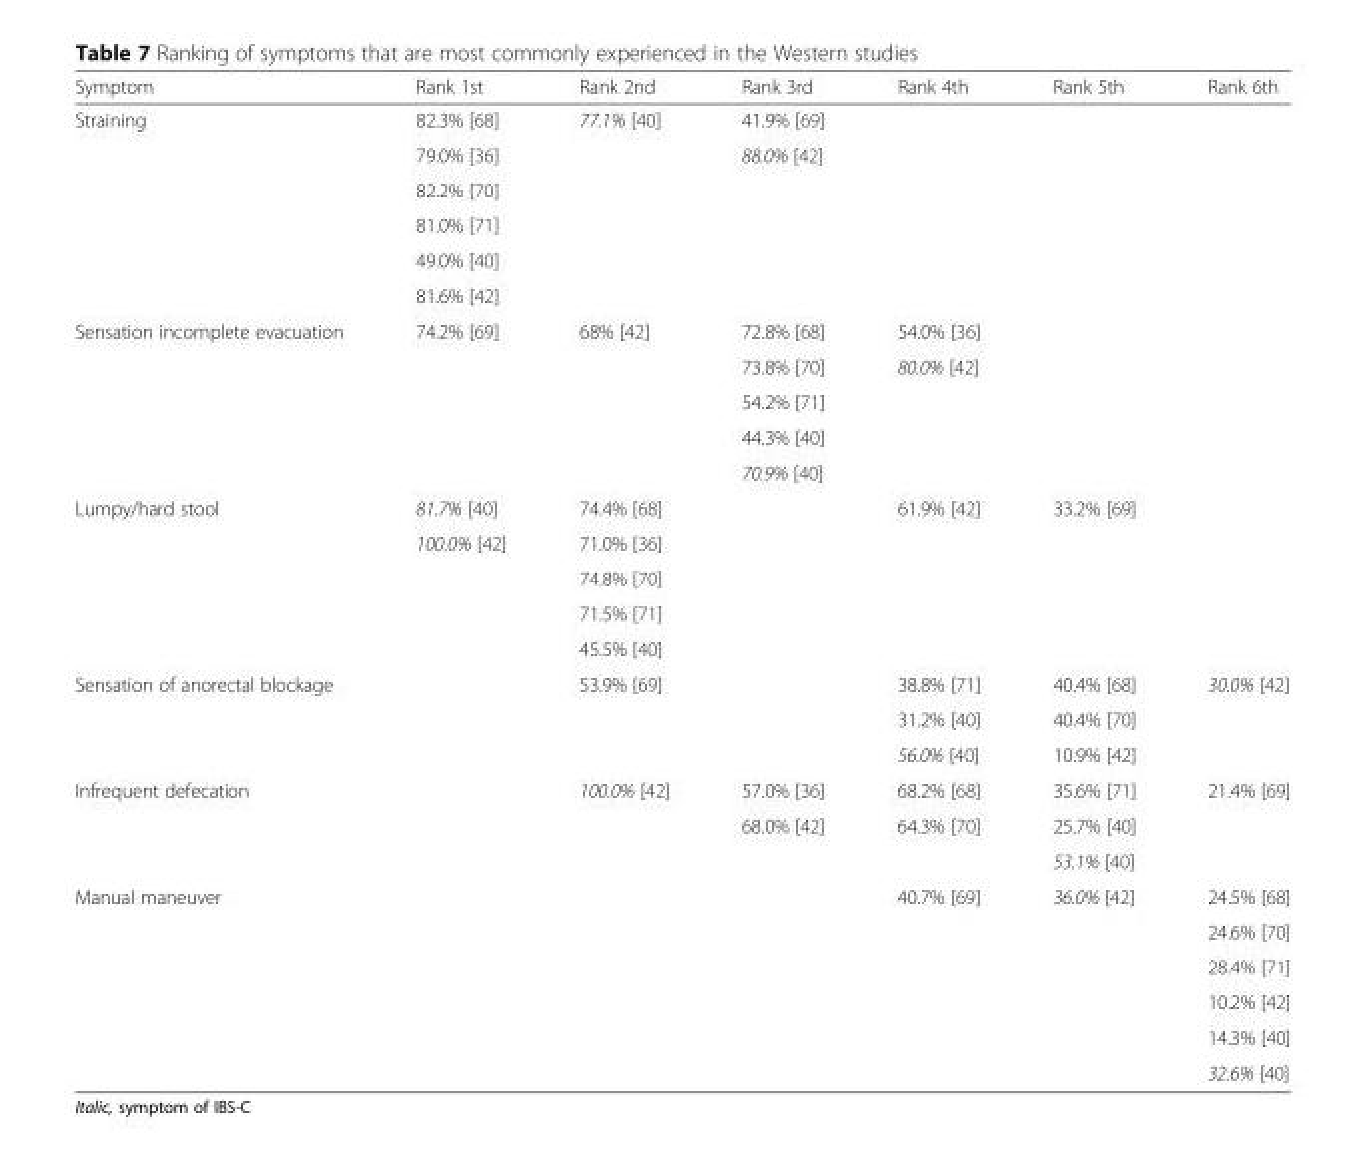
<table><thead><tr><td>Symptom</td><td>Rank 1st</td><td>Rank 2nd</td><td>Rank 3rd</td><td>Rank 4th</td><td>Rank 5th</td><td>Rank 6th</td></tr></thead><tbody><tr><td rowspan="6">Straining</td><td>82.3% [68]</td><td>77.1% [40]</td><td>41.9% [69]</td><td></td><td></td><td></td></tr><tr><td>79.0% [36]</td><td></td><td>88.0% [42]</td><td></td><td></td><td></td></tr><tr><td>82.2% [70]</td><td></td><td></td><td></td><td></td><td></td></tr><tr><td>81.0% [71]</td><td></td><td></td><td></td><td></td><td></td></tr><tr><td>49.0% [40]</td><td></td><td></td><td></td><td></td><td></td></tr><tr><td>81.6% [42]</td><td></td><td></td><td></td><td></td><td></td></tr><tr><td rowspan="5">Sensation incomplete evacuation</td><td>74.2% [69]</td><td>68% [42]</td><td>72.8% [68]</td><td>54.0% [36]</td><td></td><td></td></tr><tr><td></td><td></td><td>73.8% [70]</td><td>80.0% [42]</td><td></td><td></td></tr><tr><td></td><td></td><td>54.2% [71]</td><td></td><td></td><td></td></tr><tr><td></td><td></td><td>44.3% [40]</td><td></td><td></td><td></td></tr><tr><td></td><td></td><td>70.9% [40]</td><td></td><td></td><td></td></tr><tr><td rowspan="5">Lumpy/hard stool</td><td>81.7% [40]</td><td>74.4% [68]</td><td></td><td>61.9% [42]</td><td>33.2% [69]</td><td></td></tr><tr><td>100.0% [42]</td><td>71.0% [36]</td><td></td><td></td><td></td><td></td></tr><tr><td></td><td>74.8% [70]</td><td></td><td></td><td></td><td></td></tr><tr><td></td><td>71.5% [71]</td><td></td><td></td><td></td><td></td></tr><tr><td></td><td>45.5% [40]</td><td></td><td></td><td></td><td></td></tr><tr><td rowspan="3">Sensation of anorectal blockage</td><td></td><td>53.9% [69]</td><td></td><td>38.8% [71]</td><td>40.4% [68]</td><td>30.0% [42]</td></tr><tr><td></td><td></td><td></td><td>31.2% [40]</td><td>40.4% [70]</td><td></td></tr><tr><td></td><td></td><td></td><td>56.0% [40]</td><td>10.9% [42]</td><td></td></tr><tr><td rowspan="3">Infrequent defecation</td><td></td><td>100.0% [42]</td><td>57.0% [36]</td><td>68.2% [68]</td><td>35.6% [71]</td><td>21.4% [69]</td></tr><tr><td></td><td></td><td>68.0% [42]</td><td>64.3% [70]</td><td>25.7% [40]</td><td></td></tr><tr><td></td><td></td><td></td><td></td><td>53.1% [40]</td><td></td></tr><tr><td rowspan="6">Manual maneuver</td><td></td><td></td><td></td><td>40.7% [69]</td><td>36.0% [42]</td><td>24.5% [68]</td></tr><tr><td></td><td></td><td></td><td></td><td></td><td>24.6% [70]</td></tr><tr><td></td><td></td><td></td><td></td><td></td><td>28.4% [71]</td></tr><tr><td></td><td></td><td></td><td></td><td></td><td>10.2% [42]</td></tr><tr><td></td><td></td><td></td><td></td><td></td><td>14.3% [40]</td></tr><tr><td></td><td></td><td></td><td></td><td></td><td>32.6% [40]</td></tr></tbody></table>